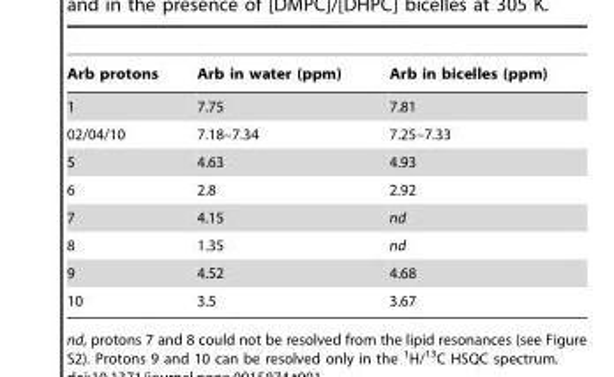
<table><thead><tr><td>Arb protons</td><td>Arb in water (ppm)</td><td>Arb in bicelles (ppm)</td></tr></thead><tbody><tr><td>1</td><td>7.75</td><td>7.81</td></tr><tr><td>02/04/10</td><td>7.18–7.34</td><td>7.25–7.33</td></tr><tr><td>5</td><td>4.63</td><td>4.93</td></tr><tr><td>6</td><td>2.8</td><td>2.92</td></tr><tr><td>7</td><td>4.15</td><td>nd</td></tr><tr><td>8</td><td>1.35</td><td>nd</td></tr><tr><td>9</td><td>4.52</td><td>4.68</td></tr><tr><td>10</td><td>3.5</td><td>3.67</td></tr></tbody></table>